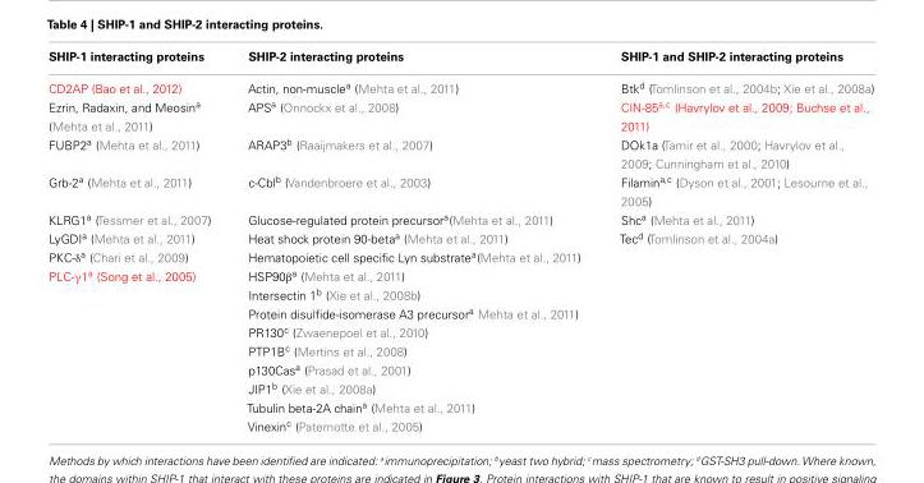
<table><thead><tr><td>SHIP-1 interacting proteins</td><td>SHIP-2 interacting proteins</td><td>SHIP-1 and SHIP-2 interacting proteins</td></tr></thead><tbody><tr><td>CD2AP (Bao et al., 2012)</td><td>Actin, non-muscle<sup>a</sup> (Mehta et al., 2011)</td><td>Btk<sup>d</sup> (Tomlinson et al., 2004b; Xie et al., 2008a)</td></tr><tr><td>Ezrin, Radaxin, and Meosin<sup>a</sup> (Mehta et al., 2011)</td><td>APS<sup>a</sup> (Onnockx et al., 2008)</td><td>CIN-85<sup>a,c</sup> (Havrylov et al., 2009; Buchse et al., 2011)</td></tr><tr><td>FUBP2<sup>a</sup> (Mehta et al., 2011)</td><td>ARAP3<sup>b</sup> (Raaijmakers et al., 2007)</td><td>DOk1a (Tamir et al., 2000; Havrylov et al., 2009; Cunningham et al., 2010)</td></tr><tr><td>Grb-2<sup>a</sup> (Mehta et al., 2011)</td><td>c-Cbl<sup>b</sup> (Vandenbroere et al., 2003)</td><td>Filamin<sup>a,c</sup> (Dyson et al., 2001; Lesourne et al., 2005)</td></tr><tr><td>KLRG1<sup>a</sup> (Tessmer et al., 2007)</td><td>Glucose-regulated protein precursor<sup>a</sup>(Mehta et al., 2011)</td><td>Shc<sup>a</sup> (Mehta et al., 2011)</td></tr><tr><td>LyGDI<sup>a</sup> (Mehta et al., 2011)</td><td>Heat shock protein 90-beta<sup>a</sup> (Mehta et al., 2011)</td><td>Tec<sup>d</sup> (Tomlinson et al., 2004a)</td></tr><tr><td>PKC-δ<sup>a</sup> (Chari et al., 2009)</td><td>Hematopoietic cell specific Lyn substrate<sup>a</sup>(Mehta et al., 2011)</td><td></td></tr><tr><td rowspan="9">PLC-γ1<sup>a</sup> (Song et al., 2005)</td><td>HSP90β<sup>a</sup> (Mehta et al., 2011)</td><td></td></tr><tr><td>Intersectin 1<sup>b</sup> (Xie et al., 2008b)</td><td></td></tr><tr><td>Protein disulfide-isomerase A3 precursor<sup>a</sup> Mehta et al., 2011)</td><td></td></tr><tr><td>PR130<sup>c</sup> (Zwaenepoel et al., 2010)</td><td></td></tr><tr><td>PTP1B<sup>c</sup> (Mertins et al., 2008)</td><td></td></tr><tr><td>p130Cas<sup>a</sup> (Prasad et al., 2001)</td><td></td></tr><tr><td>JIP1<sup>b</sup> (Xie et al., 2008a)</td><td></td></tr><tr><td>Tubulin beta-2A chain<sup>a</sup> (Mehta et al., 2011)</td><td></td></tr><tr><td>Vinexin<sup>c</sup> (Paternotte et al., 2005)</td><td></td></tr></tbody></table>